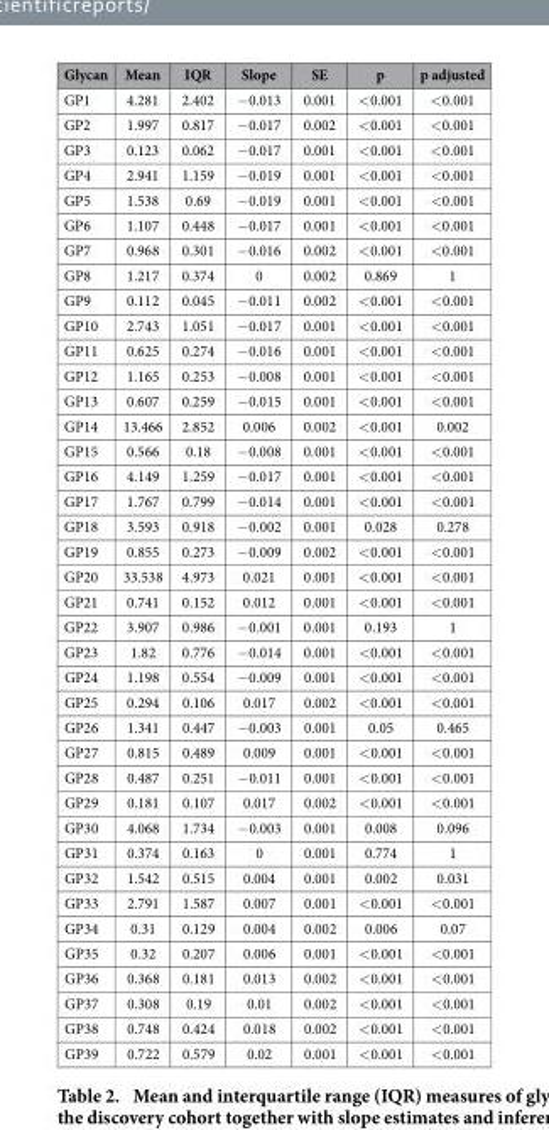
<table><thead><tr><td>Glycan</td><td>Mean</td><td>IQR</td><td>Slope</td><td>SE</td><td>p</td><td>p adjusted</td></tr></thead><tbody><tr><td>GP1</td><td>4.281</td><td>2.402</td><td>− 0.013</td><td>0.001</td><td>&lt; 0.001</td><td>&lt; 0.001</td></tr><tr><td>GP2</td><td>1.997</td><td>0.817</td><td>− 0.017</td><td>0.002</td><td>&lt; 0.001</td><td>&lt; 0.001</td></tr><tr><td>GP3</td><td>0.123</td><td>0.062</td><td>− 0.017</td><td>0.001</td><td>&lt; 0.001</td><td>&lt; 0.001</td></tr><tr><td>GP4</td><td>2.941</td><td>1.159</td><td>− 0.019</td><td>0.001</td><td>&lt; 0.001</td><td>&lt; 0.001</td></tr><tr><td>GP5</td><td>1.538</td><td>0.69</td><td>− 0.019</td><td>0.001</td><td>&lt; 0.001</td><td>&lt; 0.001</td></tr><tr><td>GP6</td><td>1.107</td><td>0.448</td><td>− 0.017</td><td>0.001</td><td>&lt; 0.001</td><td>&lt; 0.001</td></tr><tr><td>GP7</td><td>0.968</td><td>0.301</td><td>− 0.016</td><td>0.002</td><td>&lt; 0.001</td><td>&lt; 0.001</td></tr><tr><td>GP8</td><td>1.217</td><td>0.374</td><td>0</td><td>0.002</td><td>0.869</td><td>1</td></tr><tr><td>GP9</td><td>0.112</td><td>0.045</td><td>− 0.011</td><td>0.002</td><td>&lt; 0.001</td><td>&lt; 0.001</td></tr><tr><td>GP10</td><td>2.743</td><td>1.051</td><td>− 0.017</td><td>0.001</td><td>&lt; 0.001</td><td>&lt; 0.001</td></tr><tr><td>GP11</td><td>0.625</td><td>0.274</td><td>− 0.016</td><td>0.001</td><td>&lt; 0.001</td><td>&lt; 0.001</td></tr><tr><td>GP12</td><td>1.165</td><td>0.253</td><td>− 0.008</td><td>0.001</td><td>&lt; 0.001</td><td>&lt; 0.001</td></tr><tr><td>GP13</td><td>0.607</td><td>0.259</td><td>− 0.015</td><td>0.001</td><td>&lt; 0.001</td><td>&lt; 0.001</td></tr><tr><td>GP14</td><td>13.466</td><td>2.852</td><td>0.006</td><td>0.002</td><td>&lt; 0.001</td><td>0.002</td></tr><tr><td>GP15</td><td>0.566</td><td>0.18</td><td>− 0.008</td><td>0.001</td><td>&lt; 0.001</td><td>&lt; 0.001</td></tr><tr><td>GP16</td><td>4.149</td><td>1.259</td><td>− 0.017</td><td>0.001</td><td>&lt; 0.001</td><td>&lt; 0.001</td></tr><tr><td>GP17</td><td>1.767</td><td>0.799</td><td>− 0.014</td><td>0.001</td><td>&lt; 0.001</td><td>&lt; 0.001</td></tr><tr><td>GP18</td><td>3.593</td><td>0.918</td><td>− 0.002</td><td>0.001</td><td>0.028</td><td>0.278</td></tr><tr><td>GP19</td><td>0.855</td><td>0.273</td><td>− 0.009</td><td>0.002</td><td>&lt; 0.001</td><td>&lt; 0.001</td></tr><tr><td>GP20</td><td>33.538</td><td>4.973</td><td>0.021</td><td>0.001</td><td>&lt; 0.001</td><td>&lt; 0.001</td></tr><tr><td>GP21</td><td>0.741</td><td>0.152</td><td>0.012</td><td>0.001</td><td>&lt; 0.001</td><td>&lt; 0.001</td></tr><tr><td>GP22</td><td>3.907</td><td>0.986</td><td>− 0.001</td><td>0.001</td><td>0.193</td><td>1</td></tr><tr><td>GP23</td><td>1.82</td><td>0.776</td><td>− 0.014</td><td>0.001</td><td>&lt; 0.001</td><td>&lt; 0.001</td></tr><tr><td>GP24</td><td>1.198</td><td>0.554</td><td>− 0.009</td><td>0.001</td><td>&lt; 0.001</td><td>&lt; 0.001</td></tr><tr><td>GP25</td><td>0.294</td><td>0.106</td><td>0.017</td><td>0.002</td><td>&lt; 0.001</td><td>&lt; 0.001</td></tr><tr><td>GP26</td><td>1.341</td><td>0.447</td><td>− 0.003</td><td>0.001</td><td>0.05</td><td>0.465</td></tr><tr><td>GP27</td><td>0.815</td><td>0.489</td><td>0.009</td><td>0.001</td><td>&lt; 0.001</td><td>&lt; 0.001</td></tr><tr><td>GP28</td><td>0.487</td><td>0.251</td><td>− 0.011</td><td>0.001</td><td>&lt; 0.001</td><td>&lt; 0.001</td></tr><tr><td>GP29</td><td>0.181</td><td>0.107</td><td>0.017</td><td>0.002</td><td>&lt; 0.001</td><td>&lt; 0.001</td></tr><tr><td>GP30</td><td>4.068</td><td>1.734</td><td>− 0.003</td><td>0.001</td><td>0.008</td><td>0.096</td></tr><tr><td>GP31</td><td>0.374</td><td>0.163</td><td>0</td><td>0.001</td><td>0.774</td><td>1</td></tr><tr><td>GP32</td><td>1.542</td><td>0.515</td><td>0.004</td><td>0.001</td><td>0.002</td><td>0.031</td></tr><tr><td>GP33</td><td>2.791</td><td>1.587</td><td>0.007</td><td>0.001</td><td>&lt; 0.001</td><td>&lt; 0.001</td></tr><tr><td>GP34</td><td>0.31</td><td>0.129</td><td>0.004</td><td>0.002</td><td>0.006</td><td>0.07</td></tr><tr><td>GP35</td><td>0.32</td><td>0.207</td><td>0.006</td><td>0.001</td><td>&lt; 0.001</td><td>&lt; 0.001</td></tr><tr><td>GP36</td><td>0.368</td><td>0.181</td><td>0.013</td><td>0.002</td><td>&lt; 0.001</td><td>&lt; 0.001</td></tr><tr><td>GP37</td><td>0.308</td><td>0.19</td><td>0.01</td><td>0.002</td><td>&lt; 0.001</td><td>&lt; 0.001</td></tr><tr><td>GP38</td><td>0.748</td><td>0.424</td><td>0.018</td><td>0.002</td><td>&lt; 0.001</td><td>&lt; 0.001</td></tr><tr><td>GP39</td><td>0.722</td><td>0.579</td><td>0.02</td><td>0.001</td><td>&lt; 0.001</td><td>&lt; 0.001</td></tr></tbody></table>